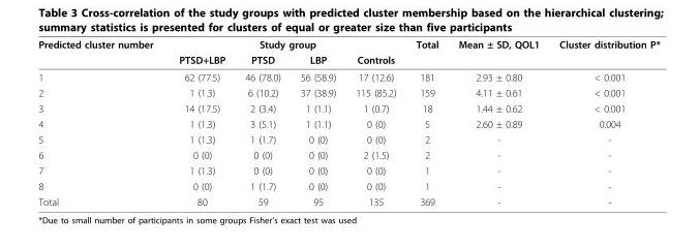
<table><thead><tr><td rowspan="2">Predicted cluster number</td><td colspan="4">Study group</td><td rowspan="2">Total</td><td rowspan="2">Mean ± SD, QOL1</td><td rowspan="2">Cluster distribution P*</td></tr><tr><td>PTSD+LBP</td><td>PTSD</td><td>LBP</td><td>Controls</td></tr></thead><tbody><tr><td>1</td><td>62 (77.5)</td><td>46 (78.0)</td><td>56 (58.9)</td><td>17 (12.6)</td><td>181</td><td>2.93 ± 0.80</td><td>&lt; 0.001</td></tr><tr><td>2</td><td>1 (1.3)</td><td>6 (10.2)</td><td>37 (38.9)</td><td>115 (85.2)</td><td>159</td><td>4.11 ± 0.61</td><td>&lt; 0.001</td></tr><tr><td>3</td><td>14 (17.5)</td><td>2 (3.4)</td><td>1 (1.1)</td><td>1 (0.7)</td><td>18</td><td>1.44 ± 0.62</td><td>&lt; 0.001</td></tr><tr><td>4</td><td>1 (1.3)</td><td>3 (5.1)</td><td>1 (1.1)</td><td>0 (0)</td><td>5</td><td>2.60 ± 0.89</td><td>0.004</td></tr><tr><td>5</td><td>1 (1.3)</td><td>1 (1.7)</td><td>0 (0)</td><td>0 (0)</td><td>2</td><td>-</td><td>-</td></tr><tr><td>6</td><td>0 (0)</td><td>0 (0)</td><td>0 (0)</td><td>2 (1.5)</td><td>2</td><td>-</td><td>-</td></tr><tr><td>7</td><td>1 (1.3)</td><td>0 (0)</td><td>0 (0)</td><td>0 (0)</td><td>1</td><td>-</td><td>-</td></tr><tr><td>8</td><td>0 (0)</td><td>1 (1.7)</td><td>0 (0)</td><td>0 (0)</td><td>1</td><td>-</td><td>-</td></tr><tr><td>Total</td><td>80</td><td>59</td><td>95</td><td>135</td><td>369</td><td>-</td><td>-</td></tr></tbody></table>